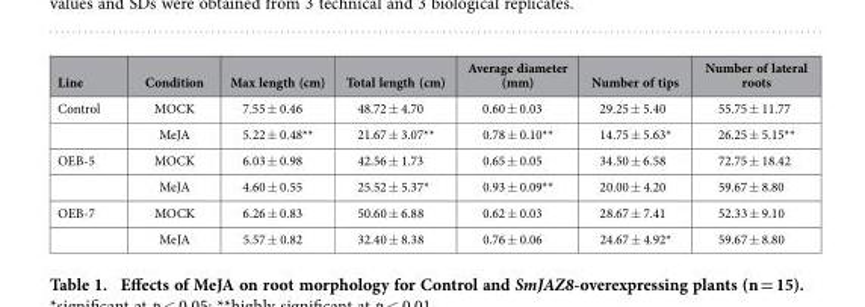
<table><thead><tr><td>Line</td><td>Condition</td><td>Max length (cm)</td><td>Total length (cm)</td><td>Average diameter (mm)</td><td>Number of tips</td><td>Number of lateral roots</td></tr></thead><tbody><tr><td rowspan="2">Control</td><td>MOCK</td><td>7.55 ± 0.46</td><td>48.72 ± 4.70</td><td>0.60 ± 0.03</td><td>29.25 ± 5.40</td><td>55.75 ± 11.77</td></tr><tr><td>MeJA</td><td>5.22 ± 0.48**</td><td>21.67 ± 3.07**</td><td>0.78 ± 0.10**</td><td>14.75 ± 5.63*</td><td>26.25 ± 5.15**</td></tr><tr><td rowspan="2">OEB-5</td><td>MOCK</td><td>6.03 ± 0.98</td><td>42.56 ± 1.73</td><td>0.65 ± 0.05</td><td>34.50 ± 6.58</td><td>72.75 ± 18.42</td></tr><tr><td>MeJA</td><td>4.60 ± 0.55</td><td>25.52 ± 5.37*</td><td>0.93 ± 0.09**</td><td>20.00 ± 4.20</td><td>59.67 ± 8.80</td></tr><tr><td rowspan="2">OEB-7</td><td>MOCK</td><td>6.26 ± 0.83</td><td>50.60 ± 6.88</td><td>0.62 ± 0.03</td><td>28.67 ± 7.41</td><td>52.33 ± 9.10</td></tr><tr><td>MeJA</td><td>5.57 ± 0.82</td><td>32.40 ± 8.38</td><td>0.76 ± 0.06</td><td>24.67 ± 4.92*</td><td>59.67 ± 8.80</td></tr></tbody></table>